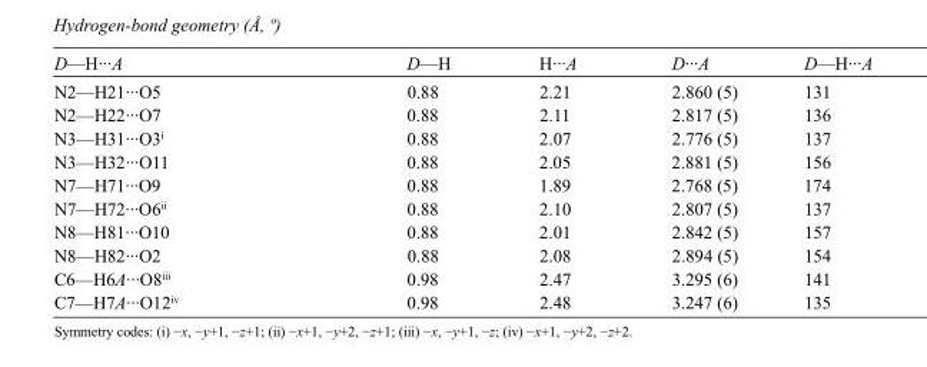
<table><tbody><tr><td>D—H···A</td><td>D—H</td><td>H···A</td><td>D···A</td><td>D—H···A</td></tr><tr><td>N2—H21···O5</td><td>0.88</td><td>2.21</td><td>2.860 (5)</td><td>131</td></tr><tr><td>N2—H22···O7</td><td>0.88</td><td>2.11</td><td>2.817 (5)</td><td>136</td></tr><tr><td>N3—H31···O3<sup>i</sup></td><td>0.88</td><td>2.07</td><td>2.776 (5)</td><td>137</td></tr><tr><td>N3—H32···O11</td><td>0.88</td><td>2.05</td><td>2.881 (5)</td><td>156</td></tr><tr><td>N7—H71···O9</td><td>0.88</td><td>1.89</td><td>2.768 (5)</td><td>174</td></tr><tr><td>N7—H72···O6<sup>ii</sup></td><td>0.88</td><td>2.10</td><td>2.807 (5)</td><td>137</td></tr><tr><td>N8—H81···O10</td><td>0.88</td><td>2.01</td><td>2.842 (5)</td><td>157</td></tr><tr><td>N8—H82···O2</td><td>0.88</td><td>2.08</td><td>2.894 (5)</td><td>154</td></tr><tr><td>C6—H6A···O8<sup>iii</sup></td><td>0.98</td><td>2.47</td><td>3.295 (6)</td><td>141</td></tr><tr><td>C7—H7A···O12<sup>iv</sup></td><td>0.98</td><td>2.48</td><td>3.247 (6)</td><td>135</td></tr></tbody></table>